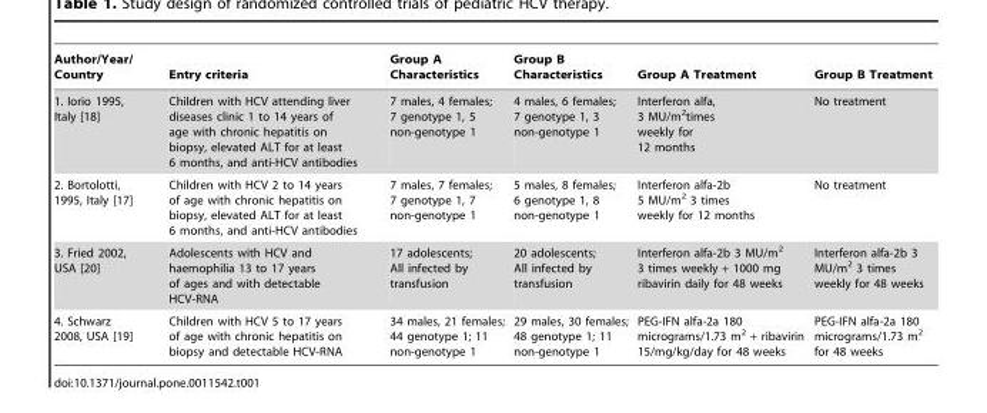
<table><thead><tr><td>Author/Year/ Country</td><td>Entry criteria</td><td>Group A Characteristics</td><td>Group B Characteristics</td><td>Group A Treatment</td><td>Group B Treatment</td></tr></thead><tbody><tr><td>1. Iorio 1995, Italy [18]</td><td>Children with HCV attending liver diseases clinic 1 to 14 years of age with chronic hepatitis on biopsy, elevated ALT for at least 6 months, and anti-HCV antibodies</td><td>7 males, 4 females; 7 genotype 1, 5 non-genotype 1</td><td>4 males, 6 females; 7 genotype 1, 3 non-genotype 1</td><td>Interferon alfa, 3 MU/m<sup>2</sup>times weekly for 12 months</td><td>No treatment</td></tr><tr><td>2. Bortolotti, 1995, Italy [17]</td><td>Children with HCV 2 to 14 years of age with chronic hepatitis on biopsy, elevated ALT for at least 6 months, and anti-HCV antibodies</td><td>7 males, 7 females; 7 genotype 1, 7 non-genotype 1</td><td>5 males, 8 females; 6 genotype 1, 8 non-genotype 1</td><td>Interferon alfa-2b 5 MU/m<sup>2</sup> 3 times weekly for 12 months</td><td>No treatment</td></tr><tr><td>3. Fried 2002, USA [20]</td><td>Adolescents with HCV and haemophilia 13 to 17 years of ages and with detectable HCV-RNA</td><td>17 adolescents; All infected by transfusion</td><td>20 adolescents; All infected by transfusion</td><td>Interferon alfa-2b 3 MU/m<sup>2</sup> 3 times weekly + 1000 mg ribavirin daily for 48 weeks</td><td>Interferon alfa-2b 3 MU/m<sup>2</sup> 3 times weekly for 48 weeks</td></tr><tr><td>4. Schwarz 2008, USA [19]</td><td>Children with HCV 5 to 17 years of age with chronic hepatitis on biopsy and detectable HCV-RNA</td><td>34 males, 21 females; 44 genotype 1; 11 non-genotype 1</td><td>29 males, 30 females; 48 genotype 1; 11 non-genotype 1</td><td>PEG-IFN alfa-2a 180 micrograms/1.73 m<sup>2</sup> + ribavirin 15/mg/kg/day for 48 weeks</td><td>PEG-IFN alfa-2a 180 micrograms/1.73 m<sup>2</sup> for 48 weeks</td></tr></tbody></table>